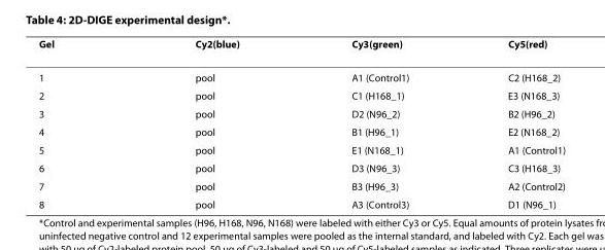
<table><thead><tr><td>Gel</td><td>Cy2(blue)</td><td>Cy3(green)</td><td>Cy5(red)</td></tr></thead><tbody><tr><td>1</td><td>pool</td><td>A1 (Control1)</td><td>C2 (H168_2)</td></tr><tr><td>2</td><td>pool</td><td>C1 (H168_1)</td><td>E3 (N168_3)</td></tr><tr><td>3</td><td>pool</td><td>D2 (N96_2)</td><td>B2 (H96_2)</td></tr><tr><td>4</td><td>pool</td><td>B1 (H96_1)</td><td>E2 (N168_2)</td></tr><tr><td>5</td><td>pool</td><td>E1 (N168_1)</td><td>A1 (Control1)</td></tr><tr><td>6</td><td>pool</td><td>D3 (N96_3)</td><td>C3 (H168_3)</td></tr><tr><td>7</td><td>pool</td><td>B3 (H96_3)</td><td>A2 (Control2)</td></tr><tr><td>8</td><td>pool</td><td>A3 (Control3)</td><td>D1 (N96_1)</td></tr></tbody></table>